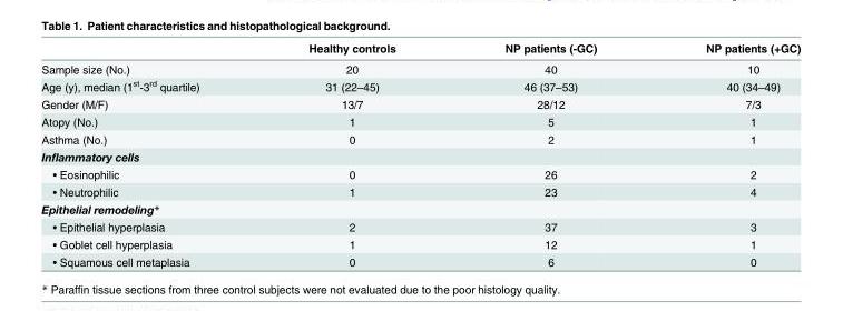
<table><thead><tr><td></td><td>Healthy controls</td><td>NP patients (-GC)</td><td>NP patients (+GC)</td></tr></thead><tbody><tr><td>Sample size (No.)</td><td>20</td><td>40</td><td>10</td></tr><tr><td>Age (y), median (1<sup>st</sup>-3<sup>rd</sup> quartile)</td><td>31 (22–45)</td><td>46 (37–53)</td><td>40 (34–49)</td></tr><tr><td>Gender (M/F)</td><td>13/7</td><td>28/12</td><td>7/3</td></tr><tr><td>Atopy (No.)</td><td>1</td><td>5</td><td>1</td></tr><tr><td>Asthma (No.)</td><td>0</td><td>2</td><td>1</td></tr><tr><td colspan="4">Inflammatory cells</td></tr><tr><td>• Eosinophilic</td><td>0</td><td>26</td><td>2</td></tr><tr><td>• Neutrophilic</td><td>1</td><td>23</td><td>4</td></tr><tr><td colspan="4">Epithelial remodeling*</td></tr><tr><td>• Epithelial hyperplasia</td><td>2</td><td>37</td><td>3</td></tr><tr><td>• Goblet cell hyperplasia</td><td>1</td><td>12</td><td>1</td></tr><tr><td>• Squamous cell metaplasia</td><td>0</td><td>6</td><td>0</td></tr></tbody></table>